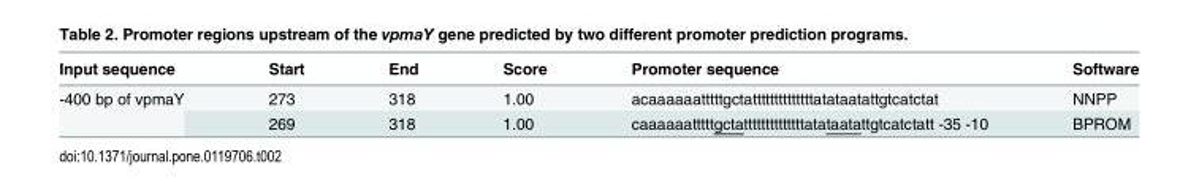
<table><thead><tr><td>Input sequence</td><td>Start</td><td>End</td><td>Score</td><td>Promoter sequence</td><td>Software</td></tr></thead><tbody><tr><td rowspan="2">-400 bp of vpmaY</td><td>273</td><td>318</td><td>1.00</td><td>acaaaaaatttttgctattttttttttttttatataatattgtcatctat</td><td>NNPP</td></tr><tr><td>269</td><td>318</td><td>1.00</td><td>caaaaaatttttgctattttttttttttttatataatattgtcatctatt -35 -10</td><td>BPROM</td></tr></tbody></table>